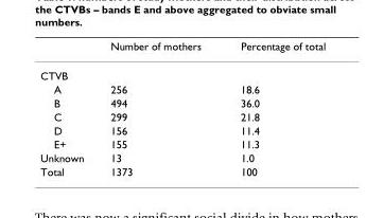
<table><thead><tr><td></td><td>Number of mothers</td><td>Percentage of total</td></tr></thead><tbody><tr><td colspan="3">CTVB</td></tr><tr><td>A</td><td>256</td><td>18.6</td></tr><tr><td>B</td><td>494</td><td>36.0</td></tr><tr><td>C</td><td>299</td><td>21.8</td></tr><tr><td>D</td><td>156</td><td>11.4</td></tr><tr><td>E+</td><td>155</td><td>11.3</td></tr><tr><td>Unknown</td><td>13</td><td>1.0</td></tr><tr><td>Total</td><td>1373</td><td>100</td></tr></tbody></table>